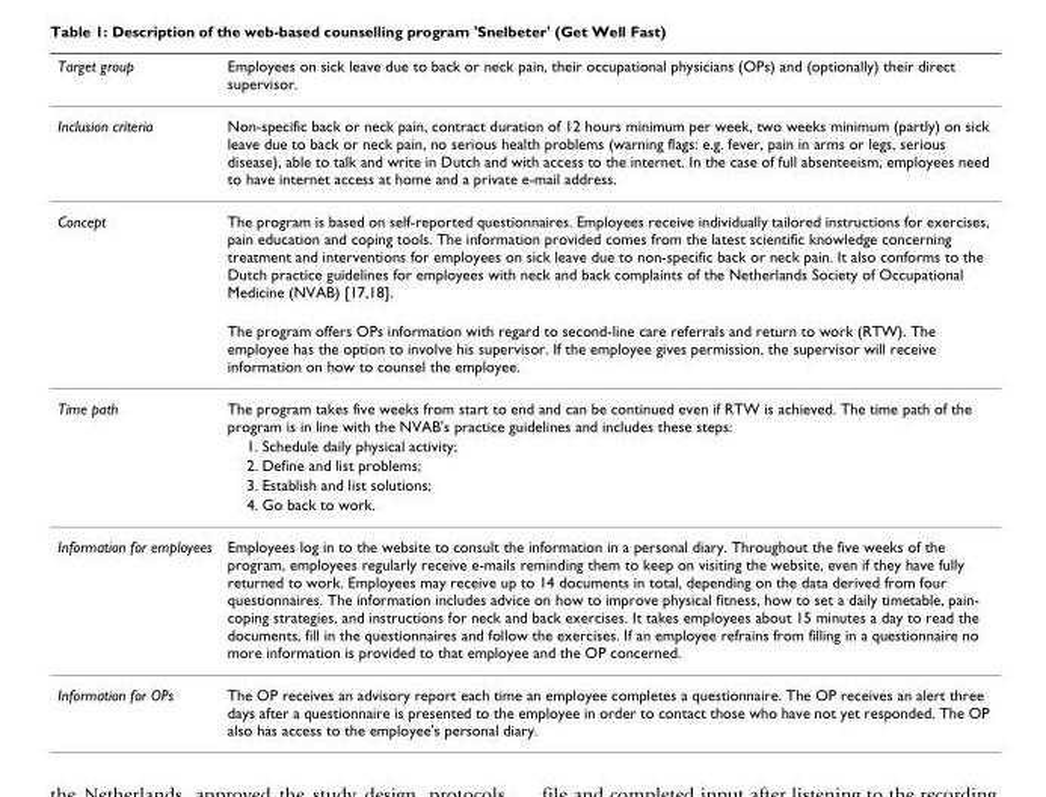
<table><thead><tr><td>Target group</td><td>Employees on sick leave due to back or neck pain, their occupational physicians (OPs) and (optionally) their direct supervisor.</td></tr></thead><tbody><tr><td>Inclusion criteria</td><td>Non-specific back or neck pain, contract duration of 12 hours minimum per week, two weeks minimum (partly) on sick leave due to back or neck pain, no serious health problems (warning flags: e.g. fever, pain in arms or legs, serious disease), able to talk and write in Dutch and with access to the internet. In the case of full absenteeism, employees need to have internet access at home and a private e-mail address.</td></tr><tr><td rowspan="2">Concept</td><td>The program is based on self-reported questionnaires. Employees receive individually tailored instructions for exercises, pain education and coping tools. The information provided comes from the latest scientific knowledge concerning treatment and interventions for employees on sick leave due to non-specific back or neck pain. It also conforms to the Dutch practice guidelines for employees with neck and back complaints of the Netherlands Society of Occupational Medicine (NVAB) [17,18].</td></tr><tr><td>The program offers OPs information with regard to second-line care referrals and return to work (RTW). The employee has the option to involve his supervisor. If the employee gives permission, the supervisor will receive information on how to counsel the employee.</td></tr><tr><td rowspan="5">Time path</td><td>The program takes five weeks from start to end and can be continued even if RTW is achieved. The time path of the program is in line with the NVAB&#x27;s practice guidelines and includes these steps:</td></tr><tr><td>1. Schedule daily physical activity;</td></tr><tr><td>2. Define and list problems;</td></tr><tr><td>3. Establish and list solutions;</td></tr><tr><td>4. Go back to work.</td></tr><tr><td>Information for employees</td><td>Employees log in to the website to consult the information in a personal diary. Throughout the five weeks of the program, employees regularly receive e-mails reminding them to keep on visiting the website, even if they have fully returned to work. Employees may receive up to 14 documents in total, depending on the data derived from four questionnaires. The information includes advice on how to improve physical fitness, how to set a daily timetable, pain- coping strategies, and instructions for neck and back exercises. It takes employees about 15 minutes a day to read the documents, fill in the questionnaires and follow the exercises. If an employee refrains from filling in a questionnaire no more information is provided to that employee and the OP concerned.</td></tr><tr><td>Information for OPs</td><td>The OP receives an advisory report each time an employee completes a questionnaire. The OP receives an alert three days after a questionnaire is presented to the employee in order to contact those who have not yet responded. The OP also has access to the employee&#x27;s personal diary.</td></tr></tbody></table>